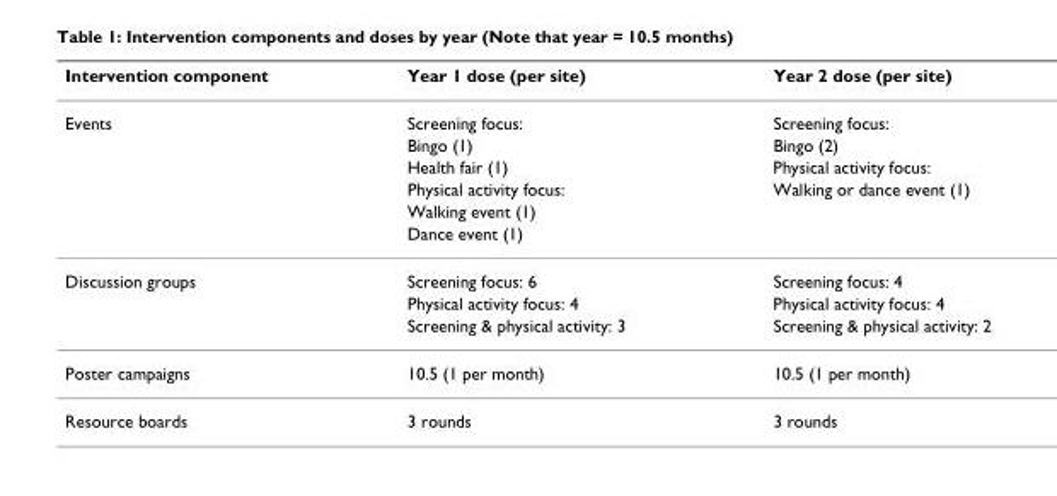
<table><thead><tr><td>Intervention component</td><td>Year 1 dose (per site)</td><td>Year 2 dose (per site)</td></tr></thead><tbody><tr><td rowspan="6">Events</td><td>Screening focus:</td><td>Screening focus:</td></tr><tr><td>Bingo (1)</td><td>Bingo (2)</td></tr><tr><td>Health fair (1)</td><td>Physical activity focus:</td></tr><tr><td>Physical activity focus:</td><td>Walking or dance event (1)</td></tr><tr><td>Walking event (1)</td><td></td></tr><tr><td>Dance event (1)</td><td></td></tr><tr><td rowspan="3">Discussion groups</td><td>Screening focus: 6</td><td>Screening focus: 4</td></tr><tr><td>Physical activity focus: 4</td><td>Physical activity focus: 4</td></tr><tr><td>Screening &amp; physical activity: 3</td><td>Screening &amp; physical activity: 2</td></tr><tr><td>Poster campaigns</td><td>10.5 (1 per month)</td><td>10.5 (1 per month)</td></tr><tr><td>Resource boards</td><td>3 rounds</td><td>3 rounds</td></tr></tbody></table>